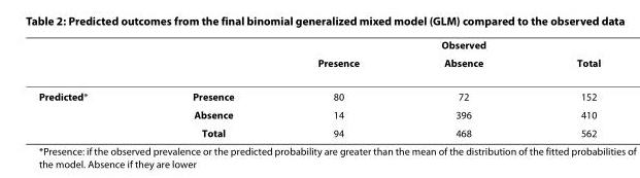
<table><thead><tr><td rowspan="2"></td><td rowspan="2"></td><td colspan="3">Observed</td></tr><tr><td>Presence</td><td>Absence</td><td>Total</td></tr></thead><tbody><tr><td rowspan="3">Predicted*</td><td>Presence</td><td>80</td><td>72</td><td>152</td></tr><tr><td>Absence</td><td>14</td><td>396</td><td>410</td></tr><tr><td>Total</td><td>94</td><td>468</td><td>562</td></tr></tbody></table>